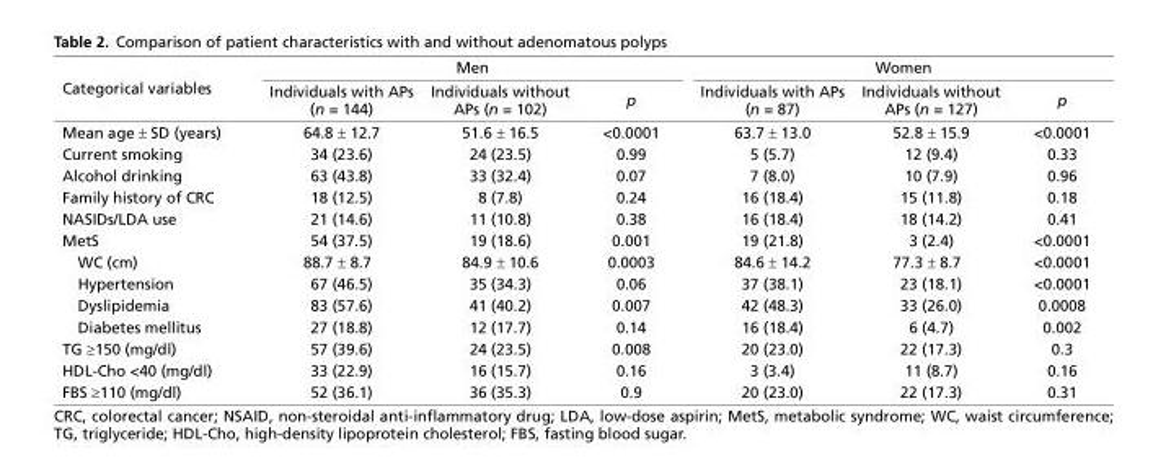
<table><thead><tr><td rowspan="2">Categorical variables</td><td colspan="3">Men</td><td colspan="3">Women</td></tr><tr><td>Individuals with APs (n = 144)</td><td>Individuals without APs (n = 102)</td><td>p</td><td>Individuals with APs (n = 87)</td><td>Individuals without APs (n = 127)</td><td>p</td></tr></thead><tbody><tr><td>Mean age ± SD (years)</td><td>64.8 ± 12.7</td><td>51.6 ± 16.5</td><td>&lt;0.0001</td><td>63.7 ± 13.0</td><td>52.8 ± 15.9</td><td>&lt;0.0001</td></tr><tr><td>Current smoking</td><td>34 (23.6)</td><td>24 (23.5)</td><td>0.99</td><td>5 (5.7)</td><td>12 (9.4)</td><td>0.33</td></tr><tr><td>Alcohol drinking</td><td>63 (43.8)</td><td>33 (32.4)</td><td>0.07</td><td>7 (8.0)</td><td>10 (7.9)</td><td>0.96</td></tr><tr><td>Family history of CRC</td><td>18 (12.5)</td><td>8 (7.8)</td><td>0.24</td><td>16 (18.4)</td><td>15 (11.8)</td><td>0.18</td></tr><tr><td>NASIDs/LDA use</td><td>21 (14.6)</td><td>11 (10.8)</td><td>0.38</td><td>16 (18.4)</td><td>18 (14.2)</td><td>0.41</td></tr><tr><td>MetS</td><td>54 (37.5)</td><td>19 (18.6)</td><td>0.001</td><td>19 (21.8)</td><td>3 (2.4)</td><td>&lt;0.0001</td></tr><tr><td>WC (cm)</td><td>88.7 ± 8.7</td><td>84.9 ± 10.6</td><td>0.0003</td><td>84.6 ± 14.2</td><td>77.3 ± 8.7</td><td>&lt;0.0001</td></tr><tr><td>Hypertension</td><td>67 (46.5)</td><td>35 (34.3)</td><td>0.06</td><td>37 (38.1)</td><td>23 (18.1)</td><td>&lt;0.0001</td></tr><tr><td>Dyslipidemia</td><td>83 (57.6)</td><td>41 (40.2)</td><td>0.007</td><td>42 (48.3)</td><td>33 (26.0)</td><td>0.0008</td></tr><tr><td>Diabetes mellitus</td><td>27 (18.8)</td><td>12 (17.7)</td><td>0.14</td><td>16 (18.4)</td><td>6 (4.7)</td><td>0.002</td></tr><tr><td>TG ≥150 (mg/dl)</td><td>57 (39.6)</td><td>24 (23.5)</td><td>0.008</td><td>20 (23.0)</td><td>22 (17.3)</td><td>0.3</td></tr><tr><td>HDL-Cho &lt;40 (mg/dl)</td><td>33 (22.9)</td><td>16 (15.7)</td><td>0.16</td><td>3 (3.4)</td><td>11 (8.7)</td><td>0.16</td></tr><tr><td>FBS ≥110 (mg/dl)</td><td>52 (36.1)</td><td>36 (35.3)</td><td>0.9</td><td>20 (23.0)</td><td>22 (17.3)</td><td>0.31</td></tr></tbody></table>